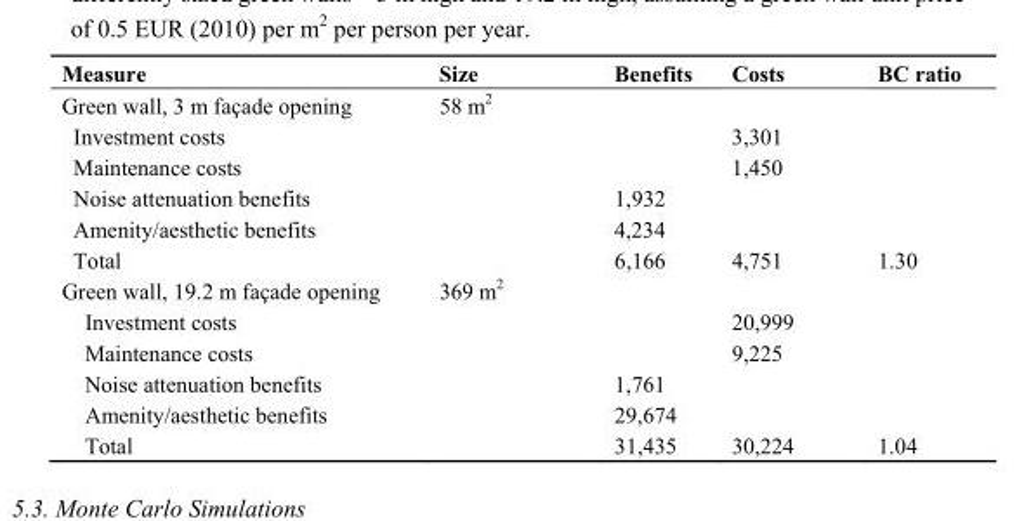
<table><thead><tr><td>Measure</td><td>Size</td><td>Benefits</td><td>Costs</td><td>BC ratio</td></tr></thead><tbody><tr><td>Green wall, 3 m façade opening</td><td>58 m<sup>2</sup></td><td></td><td></td><td></td></tr><tr><td>Investment costs</td><td></td><td></td><td>3,301</td><td></td></tr><tr><td>Maintenance costs</td><td></td><td></td><td>1,450</td><td></td></tr><tr><td>Noise attenuation benefits</td><td></td><td>1,932</td><td></td><td></td></tr><tr><td>Amenity/aesthetic benefits</td><td></td><td>4,234</td><td></td><td></td></tr><tr><td>Total</td><td></td><td>6,166</td><td>4,751</td><td>1.30</td></tr><tr><td>Green wall, 19.2 m façade opening</td><td>369 m<sup>2</sup></td><td></td><td></td><td></td></tr><tr><td>Investment costs</td><td></td><td></td><td>20,999</td><td></td></tr><tr><td>Maintenance costs</td><td></td><td></td><td>9,225</td><td></td></tr><tr><td>Noise attenuation benefits</td><td></td><td>1,761</td><td></td><td></td></tr><tr><td>Amenity/aesthetic benefits</td><td></td><td>29,674</td><td></td><td></td></tr><tr><td>Total</td><td></td><td>31,435</td><td>30,224</td><td>1.04</td></tr></tbody></table>